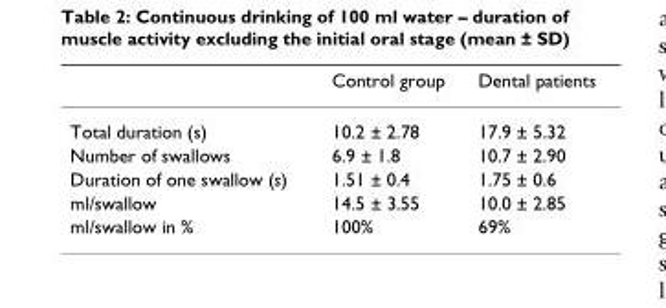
<table><thead><tr><td></td><td>Control group</td><td>Dental patients</td></tr></thead><tbody><tr><td>Total duration (s)</td><td>10.2 ± 2.78</td><td>17.9 ± 5.32</td></tr><tr><td>Number of swallows</td><td>6.9 ± 1.8</td><td>10.7 ± 2.90</td></tr><tr><td>Duration of one swallow (s)</td><td>1.51 ± 0.4</td><td>1.75 ± 0.6</td></tr><tr><td>ml/swallow</td><td>14.5 ± 3.55</td><td>10.0 ± 2.85</td></tr><tr><td>ml/swallow in %</td><td>100%</td><td>69%</td></tr></tbody></table>